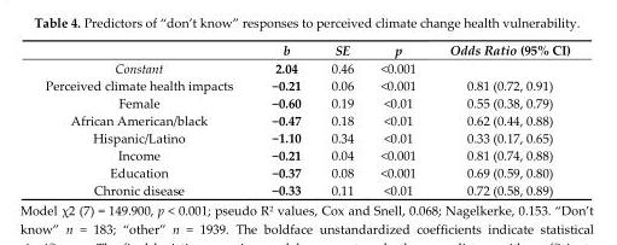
<table><thead><tr><td></td><td>b</td><td>SE</td><td>p</td><td>Odds Ratio (95% CI)</td></tr></thead><tbody><tr><td>Constant</td><td>2.04</td><td>0.46</td><td>&lt;0.001</td><td></td></tr><tr><td>Perceived climate health impacts</td><td>−0.21</td><td>0.06</td><td>&lt;0.001</td><td>0.81 (0.72, 0.91)</td></tr><tr><td>Female</td><td>−0.60</td><td>0.19</td><td>&lt;0.01</td><td>0.55 (0.38, 0.79)</td></tr><tr><td>African American/black</td><td>−0.47</td><td>0.18</td><td>&lt;0.01</td><td>0.62 (0.44, 0.88)</td></tr><tr><td>Hispanic/Latino</td><td>−1.10</td><td>0.34</td><td>&lt;0.01</td><td>0.33 (0.17, 0.65)</td></tr><tr><td>Income</td><td>−0.21</td><td>0.04</td><td>&lt;0.001</td><td>0.81 (0.74, 0.88)</td></tr><tr><td>Education</td><td>−0.37</td><td>0.08</td><td>&lt;0.001</td><td>0.69 (0.59, 0.80)</td></tr><tr><td>Chronic disease</td><td>−0.33</td><td>0.11</td><td>&lt;0.01</td><td>0.72 (0.58, 0.89)</td></tr></tbody></table>